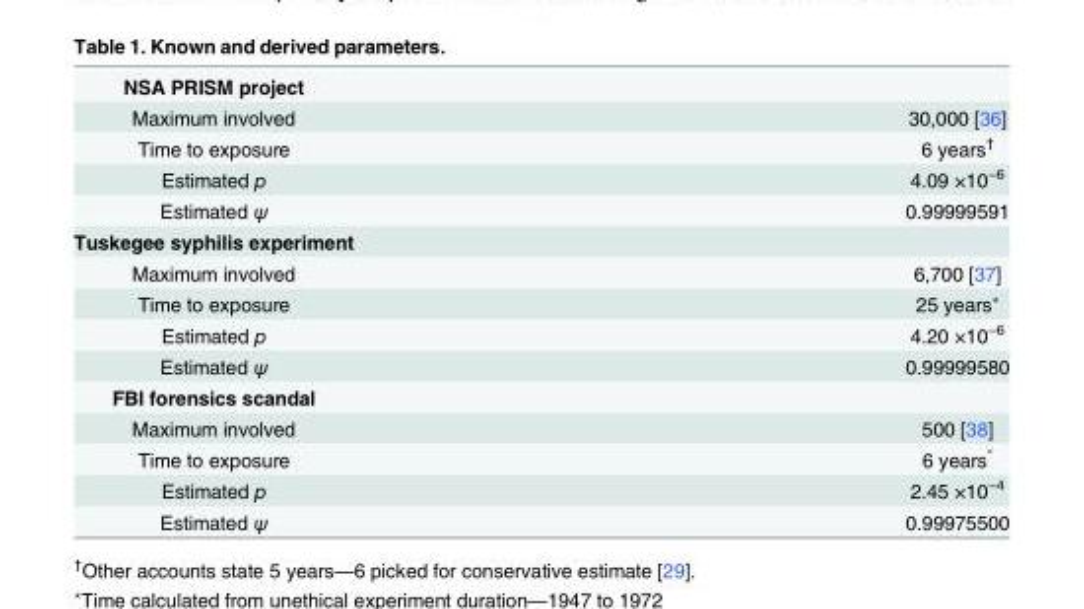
<table><tbody><tr><td colspan="2">NSA PRISM project</td></tr><tr><td>Maximum involved</td><td>30,000 [36]</td></tr><tr><td>Time to exposure</td><td>6 years<sup>†</sup></td></tr><tr><td>Estimated p</td><td>4.09 ×10<sup>−6</sup></td></tr><tr><td>Estimated ψ</td><td>0.99999591</td></tr><tr><td colspan="2">Tuskegee syphilis experiment</td></tr><tr><td>Maximum involved</td><td>6,700 [37]</td></tr><tr><td>Time to exposure</td><td>25 years<sup>⋆</sup></td></tr><tr><td>Estimated p</td><td>4.20 ×10<sup>−6</sup></td></tr><tr><td>Estimated ψ</td><td>0.99999580</td></tr><tr><td colspan="2">FBI forensics scandal</td></tr><tr><td>Maximum involved</td><td>500 [38]</td></tr><tr><td>Time to exposure</td><td>6 years<sup>°</sup></td></tr><tr><td>Estimated p</td><td>2.45 ×10<sup>−4</sup></td></tr><tr><td>Estimated ψ</td><td>0.99975500</td></tr></tbody></table>